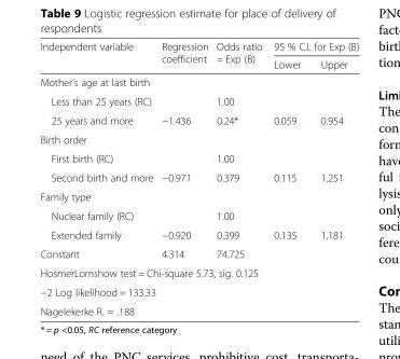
<table><thead><tr><td rowspan="2">Independent variable</td><td rowspan="2">Regression coefficient</td><td rowspan="2">Odds ratio = Exp (B)</td><td colspan="2">95 % C.I. for Exp (B)</td></tr><tr><td>Lower</td><td>Upper</td></tr></thead><tbody><tr><td colspan="5">Mother’s age at last birth</td></tr><tr><td>Less than 25 years (RC)</td><td></td><td>1.00</td><td></td><td></td></tr><tr><td>25 years and more</td><td>−1.436</td><td>0.24*</td><td>0.059</td><td>0.954</td></tr><tr><td colspan="5">Birth order</td></tr><tr><td>First birth (RC)</td><td></td><td>1.00</td><td></td><td></td></tr><tr><td>Second birth and more</td><td>−0.971</td><td>0.379</td><td>0.115</td><td>1.251</td></tr><tr><td colspan="5">Family type</td></tr><tr><td>Nuclear family (RC)</td><td></td><td>1.00</td><td></td><td></td></tr><tr><td>Extended family</td><td>−0.920</td><td>0.399</td><td>0.135</td><td>1.181</td></tr><tr><td>Constant</td><td>4.314</td><td>74.725</td><td></td><td></td></tr><tr><td colspan="5">HosmerLomshow test = Chi-square 5.73, sig. 0.125</td></tr><tr><td colspan="5">−2 Log likelihood = 133.33</td></tr><tr><td colspan="5">Nagelekerke R. = .188</td></tr></tbody></table>